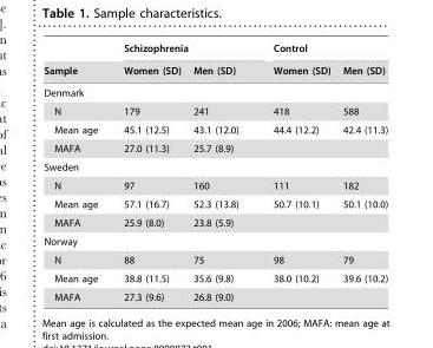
<table><thead><tr><td rowspan="2">Sample</td><td colspan="2">Schizophrenia</td><td colspan="2">Control</td></tr><tr><td>Women (SD)</td><td>Men (SD)</td><td>Women (SD)</td><td>Men (SD)</td></tr></thead><tbody><tr><td colspan="5">Denmark</td></tr><tr><td>N</td><td>179</td><td>241</td><td>418</td><td>588</td></tr><tr><td>Mean age</td><td>45.1 (12.5)</td><td>43.1 (12.0)</td><td>44.4 (12.2)</td><td>42.4 (11.3)</td></tr><tr><td>MAFA</td><td>27.0 (11.3)</td><td>25.7 (8.9)</td><td></td><td></td></tr><tr><td colspan="5">Sweden</td></tr><tr><td>N</td><td>97</td><td>160</td><td>111</td><td>182</td></tr><tr><td>Mean age</td><td>57.1 (16.7)</td><td>52.3 (13.8)</td><td>50.7 (10.1)</td><td>50.1 (10.0)</td></tr><tr><td>MAFA</td><td>25.9 (8.0)</td><td>23.8 (5.9)</td><td></td><td></td></tr><tr><td colspan="5">Norway</td></tr><tr><td>N</td><td>88</td><td>75</td><td>98</td><td>79</td></tr><tr><td>Mean age</td><td>38.8 (11.5)</td><td>35.6 (9.8)</td><td>38.0 (10.2)</td><td>39.6 (10.2)</td></tr><tr><td>MAFA</td><td>27.3 (9.6)</td><td>26.8 (9.0)</td><td></td><td></td></tr></tbody></table>